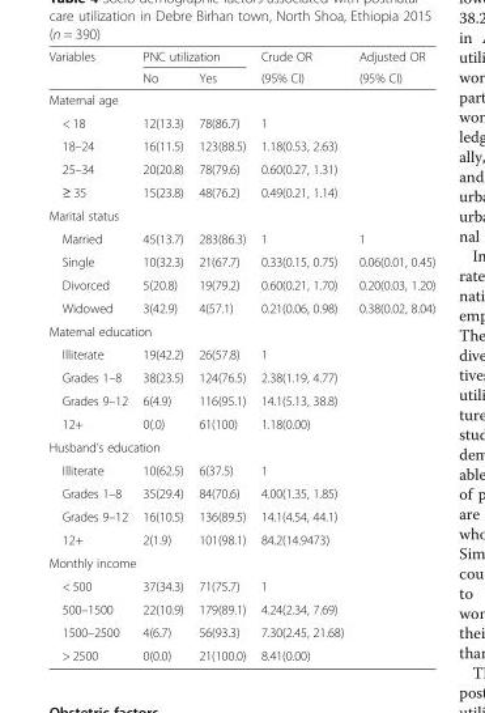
<table><thead><tr><td rowspan="2">Variables</td><td colspan="2">PNC utilization</td><td rowspan="2">Crude OR (95% CI)</td><td rowspan="2">Adjusted OR (95% CI)</td></tr><tr><td>No</td><td>Yes</td></tr></thead><tbody><tr><td colspan="5">Maternal age</td></tr><tr><td>&lt; 18</td><td>12(13.3)</td><td>78(86.7)</td><td>1</td><td rowspan="4"></td></tr><tr><td>18–24</td><td>16(11.5)</td><td>123(88.5)</td><td>1.18(0.53, 2.63)</td></tr><tr><td>25–34</td><td>20(20.8)</td><td>78(79.6)</td><td>0.60(0.27, 1.31)</td></tr><tr><td>≥ 35</td><td>15(23.8)</td><td>48(76.2)</td><td>0.49(0.21, 1.14)</td></tr><tr><td colspan="5">Marital status</td></tr><tr><td>Married</td><td>45(13.7)</td><td>283(86.3)</td><td>1</td><td>1</td></tr><tr><td>Single</td><td>10(32.3)</td><td>21(67.7)</td><td>0.33(0.15, 0.75)</td><td>0.06(0.01, 0.45)</td></tr><tr><td>Divorced</td><td>5(20.8)</td><td>19(79.2)</td><td>0.60(0.21, 1.70)</td><td>0.20(0.03, 1.20)</td></tr><tr><td>Widowed</td><td>3(42.9)</td><td>4(57.1)</td><td>0.21(0.06, 0.98)</td><td>0.38(0.02, 8.04)</td></tr><tr><td colspan="5">Maternal education</td></tr><tr><td>Illiterate</td><td>19(42.2)</td><td>26(57.8)</td><td>1</td><td rowspan="4"></td></tr><tr><td>Grades 1–8</td><td>38(23.5)</td><td>124(76.5)</td><td>2.38(1.19, 4.77)</td></tr><tr><td>Grades 9–12</td><td>6(4.9)</td><td>116(95.1)</td><td>14.1(5.13, 38.8)</td></tr><tr><td>12+</td><td>0(.0)</td><td>61(100)</td><td>1.18(0.00)</td></tr><tr><td colspan="5">Husband’s education</td></tr><tr><td>Illiterate</td><td>10(62.5)</td><td>6(37.5)</td><td>1</td><td rowspan="4"></td></tr><tr><td>Grades 1–8</td><td>35(29.4)</td><td>84(70.6)</td><td>4.00(1.35, 1.85)</td></tr><tr><td>Grades 9–12</td><td>16(10.5)</td><td>136(89.5)</td><td>14.1(4.54, 44.1)</td></tr><tr><td>12+</td><td>2(1.9)</td><td>101(98.1)</td><td>84.2(14.9473)</td></tr><tr><td colspan="5">Monthly income</td></tr><tr><td>&lt; 500</td><td>37(34.3)</td><td>71(75.7)</td><td>1</td><td rowspan="4"></td></tr><tr><td>500–1500</td><td>22(10.9)</td><td>179(89.1)</td><td>4.24(2.34, 7.69)</td></tr><tr><td>1500–2500</td><td>4(6.7)</td><td>56(93.3)</td><td>7.30(2.45, 21.68)</td></tr><tr><td>&gt; 2500</td><td>0(0.0)</td><td>21(100.0)</td><td>8.41(0.00)</td></tr></tbody></table>